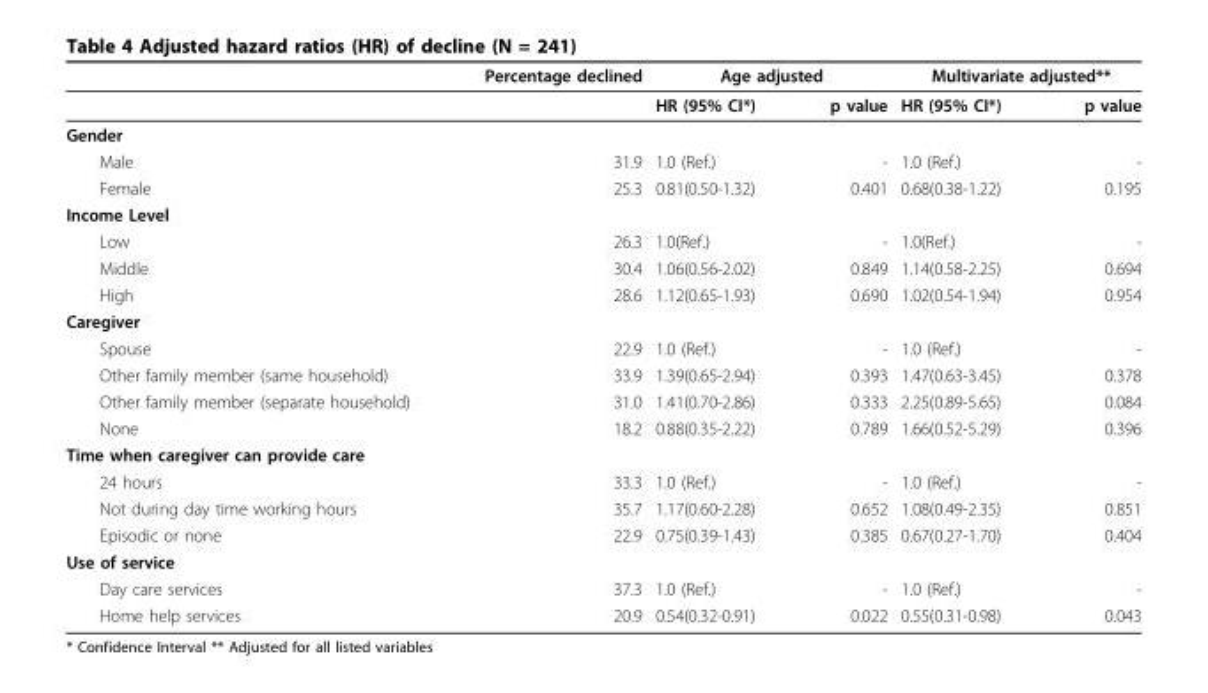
<table><thead><tr><td rowspan="2"></td><td rowspan="2">Percentage declined</td><td colspan="2">Age adjusted</td><td colspan="2">Multivariate adjusted**</td></tr><tr><td>HR (95% CI*)</td><td>p value</td><td>HR (95% CI*)</td><td>p value</td></tr></thead><tbody><tr><td colspan="6">Gender</td></tr><tr><td>Male</td><td>31.9</td><td>1.0 (Ref.)</td><td>-</td><td>1.0 (Ref.)</td><td>-</td></tr><tr><td>Female</td><td>25.3</td><td>0.81(0.50-1.32)</td><td>0.401</td><td>0.68(0.38-1.22)</td><td>0.195</td></tr><tr><td colspan="6">Income Level</td></tr><tr><td>Low</td><td>26.3</td><td>1.0(Ref.)</td><td>-</td><td>1.0(Ref.)</td><td>-</td></tr><tr><td>Middle</td><td>30.4</td><td>1.06(0.56-2.02)</td><td>0.849</td><td>1.14(0.58-2.25)</td><td>0.694</td></tr><tr><td>High</td><td>28.6</td><td>1.12(0.65-1.93)</td><td>0.690</td><td>1.02(0.54-1.94)</td><td>0.954</td></tr><tr><td colspan="6">Caregiver</td></tr><tr><td>Spouse</td><td>22.9</td><td>1.0 (Ref.)</td><td>-</td><td>1.0 (Ref.)</td><td>-</td></tr><tr><td>Other family member (same household)</td><td>33.9</td><td>1.39(0.65-2.94)</td><td>0.393</td><td>1.47(0.63-3.45)</td><td>0.378</td></tr><tr><td>Other family member (separate household)</td><td>31.0</td><td>1.41(0.70-2.86)</td><td>0.333</td><td>2.25(0.89-5.65)</td><td>0.084</td></tr><tr><td>None</td><td>18.2</td><td>0.88(0.35-2.22)</td><td>0.789</td><td>1.66(0.52-5.29)</td><td>0.396</td></tr><tr><td colspan="6">Time when caregiver can provide care</td></tr><tr><td>24 hours</td><td>33.3</td><td>1.0 (Ref.)</td><td>-</td><td>1.0 (Ref.)</td><td>-</td></tr><tr><td>Not during day time working hours</td><td>35.7</td><td>1.17(0.60-2.28)</td><td>0.652</td><td>1.08(0.49-2.35)</td><td>0.851</td></tr><tr><td>Episodic or none</td><td>22.9</td><td>0.75(0.39-1.43)</td><td>0.385</td><td>0.67(0.27-1.70)</td><td>0.404</td></tr><tr><td colspan="6">Use of service</td></tr><tr><td>Day care services</td><td>37.3</td><td>1.0 (Ref.)</td><td>-</td><td>1.0 (Ref.)</td><td>-</td></tr><tr><td>Home help services</td><td>20.9</td><td>0.54(0.32-0.91)</td><td>0.022</td><td>0.55(0.31-0.98)</td><td>0.043</td></tr></tbody></table>